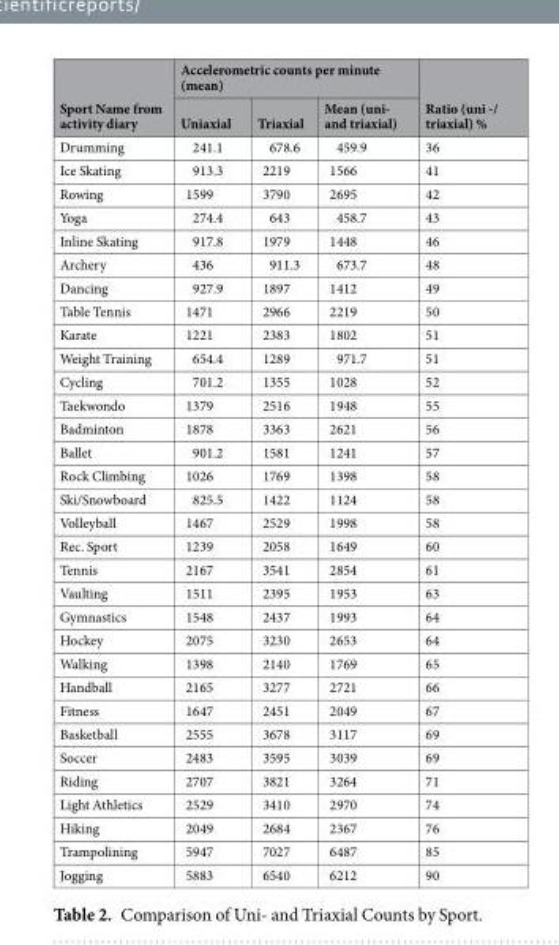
<table><thead><tr><td rowspan="2">Sport Name from activity diary</td><td colspan="3">Accelerometric counts per minute (mean)</td><td rowspan="2">Ratio (uni -/ triaxial) %</td></tr><tr><td>Uniaxial</td><td>Triaxial</td><td>Mean (uni- and triaxial)</td></tr></thead><tbody><tr><td>Drumming</td><td>241.1</td><td>678.6</td><td>459.9</td><td>36</td></tr><tr><td>Ice Skating</td><td>913.3</td><td>2219</td><td>1566</td><td>41</td></tr><tr><td>Rowing</td><td>1599</td><td>3790</td><td>2695</td><td>42</td></tr><tr><td>Yoga</td><td>274.4</td><td>643</td><td>458.7</td><td>43</td></tr><tr><td>Inline Skating</td><td>917.8</td><td>1979</td><td>1448</td><td>46</td></tr><tr><td>Archery</td><td>436</td><td>911.3</td><td>673.7</td><td>48</td></tr><tr><td>Dancing</td><td>927.9</td><td>1897</td><td>1412</td><td>49</td></tr><tr><td>Table Tennis</td><td>1471</td><td>2966</td><td>2219</td><td>50</td></tr><tr><td>Karate</td><td>1221</td><td>2383</td><td>1802</td><td>51</td></tr><tr><td>Weight Training</td><td>654.4</td><td>1289</td><td>971.7</td><td>51</td></tr><tr><td>Cycling</td><td>701.2</td><td>1355</td><td>1028</td><td>52</td></tr><tr><td>Taekwondo</td><td>1379</td><td>2516</td><td>1948</td><td>55</td></tr><tr><td>Badminton</td><td>1878</td><td>3363</td><td>2621</td><td>56</td></tr><tr><td>Ballet</td><td>901.2</td><td>1581</td><td>1241</td><td>57</td></tr><tr><td>Rock Climbing</td><td>1026</td><td>1769</td><td>1398</td><td>58</td></tr><tr><td>Ski/Snowboard</td><td>825.5</td><td>1422</td><td>1124</td><td>58</td></tr><tr><td>Volleyball</td><td>1467</td><td>2529</td><td>1998</td><td>58</td></tr><tr><td>Rec. Sport</td><td>1239</td><td>2058</td><td>1649</td><td>60</td></tr><tr><td>Tennis</td><td>2167</td><td>3541</td><td>2854</td><td>61</td></tr><tr><td>Vaulting</td><td>1511</td><td>2395</td><td>1953</td><td>63</td></tr><tr><td>Gymnastics</td><td>1548</td><td>2437</td><td>1993</td><td>64</td></tr><tr><td>Hockey</td><td>2075</td><td>3230</td><td>2653</td><td>64</td></tr><tr><td>Walking</td><td>1398</td><td>2140</td><td>1769</td><td>65</td></tr><tr><td>Handball</td><td>2165</td><td>3277</td><td>2721</td><td>66</td></tr><tr><td>Fitness</td><td>1647</td><td>2451</td><td>2049</td><td>67</td></tr><tr><td>Basketball</td><td>2555</td><td>3678</td><td>3117</td><td>69</td></tr><tr><td>Soccer</td><td>2483</td><td>3595</td><td>3039</td><td>69</td></tr><tr><td>Riding</td><td>2707</td><td>3821</td><td>3264</td><td>71</td></tr><tr><td>Light Athletics</td><td>2529</td><td>3410</td><td>2970</td><td>74</td></tr><tr><td>Hiking</td><td>2049</td><td>2684</td><td>2367</td><td>76</td></tr><tr><td>Trampolining</td><td>5947</td><td>7027</td><td>6487</td><td>85</td></tr><tr><td>Jogging</td><td>5883</td><td>6540</td><td>6212</td><td>90</td></tr></tbody></table>